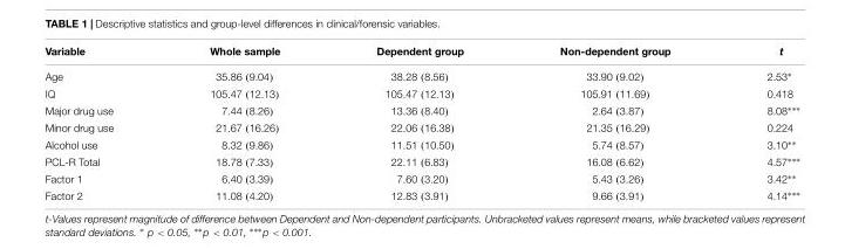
<table><thead><tr><td>Variable</td><td>Whole sample</td><td>Dependent group</td><td>Non-dependent group</td><td>t</td></tr></thead><tbody><tr><td>Age</td><td>35.86 (9.04)</td><td>38.28 (8.56)</td><td>33.90 (9.02)</td><td>2.53∗</td></tr><tr><td>IQ</td><td>105.47 (12.13)</td><td>105.47 (12.13)</td><td>105.91 (11.69)</td><td>0.418</td></tr><tr><td>Major drug use</td><td>7.44 (8.26)</td><td>13.36 (8.40)</td><td>2.64 (3.87)</td><td>8.08∗∗∗</td></tr><tr><td>Minor drug use</td><td>21.67 (16.26)</td><td>22.06 (16.38)</td><td>21.35 (16.29)</td><td>0.224</td></tr><tr><td>Alcohol use</td><td>8.32 (9.86)</td><td>11.51 (10.50)</td><td>5.74 (8.57)</td><td>3.10∗∗</td></tr><tr><td>PCL-R Total</td><td>18.78 (7.33)</td><td>22.11 (6.83)</td><td>16.08 (6.62)</td><td>4.57∗∗∗</td></tr><tr><td>Factor 1</td><td>6.40 (3.39)</td><td>7.60 (3.20)</td><td>5.43 (3.26)</td><td>3.42∗∗</td></tr><tr><td>Factor 2</td><td>11.08 (4.20)</td><td>12.83 (3.91)</td><td>9.66 (3.91)</td><td>4.14∗∗∗</td></tr></tbody></table>